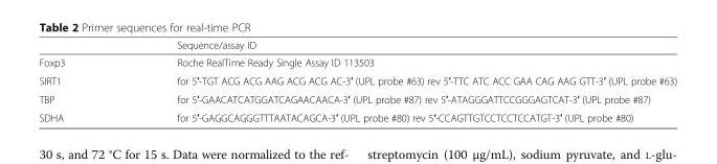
<table><thead><tr><td></td><td>Sequence/assay ID</td></tr></thead><tbody><tr><td>Foxp3</td><td>Roche RealTime Ready Single Assay ID 113503</td></tr><tr><td>SIRT1</td><td>for 5′-TGT ACG ACG AAG ACG ACG AC-3′ (UPL probe #63) rev 5′-TTC ATC ACC GAA CAG AAG GTT-3′ (UPL probe #63)</td></tr><tr><td>TBP</td><td>for 5′-GAACATCATGGATCAGAACAACA-3′ (UPL probe #87) rev 5′-ATAGGGATTCCGGGAGTCAT-3′ (UPL probe #87)</td></tr><tr><td>SDHA</td><td>for 5′-GAGGCAGGGTTTAATACAGCA-3′ (UPL probe #80) rev 5′-CCAGTTGTCCTCCTCCATGT-3′ (UPL probe #80)</td></tr></tbody></table>